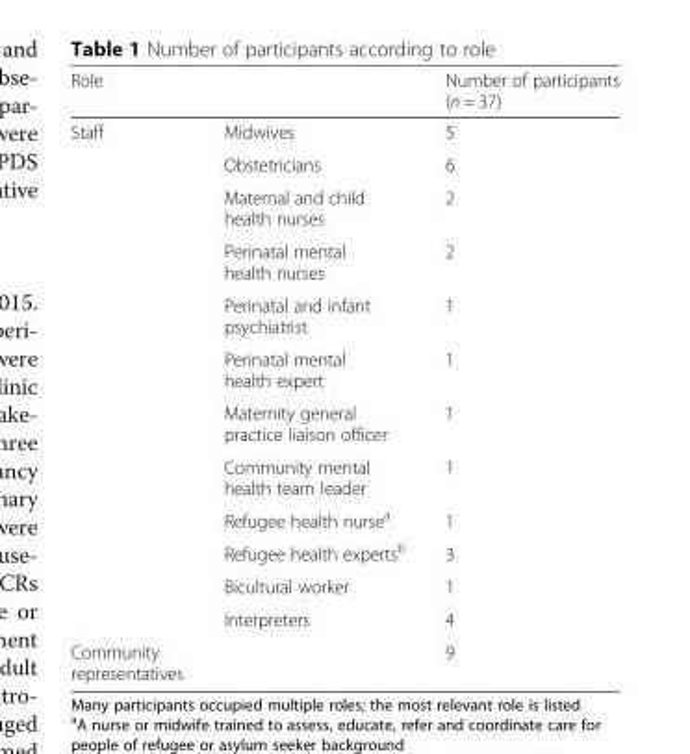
<table><thead><tr><td>Role</td><td></td><td>Number of participants (n = 37)</td></tr></thead><tbody><tr><td rowspan="12">Staff</td><td>Midwives</td><td>5</td></tr><tr><td>Obstetricians</td><td>6</td></tr><tr><td>Maternal and child health nurses</td><td>2</td></tr><tr><td>Perinatal mental health nurses</td><td>2</td></tr><tr><td>Perinatal and infant psychiatrist</td><td>1</td></tr><tr><td>Perinatal mental health expert</td><td>1</td></tr><tr><td>Maternity general practice liaison officer</td><td>1</td></tr><tr><td>Community mental health team leader</td><td>1</td></tr><tr><td>Refugee health nurse<sup>a</sup></td><td>1</td></tr><tr><td>Refugee health experts<sup>b</sup></td><td>3</td></tr><tr><td>Bicultural worker</td><td>1</td></tr><tr><td>Interpreters</td><td>4</td></tr><tr><td>Community representatives</td><td></td><td>9</td></tr></tbody></table>